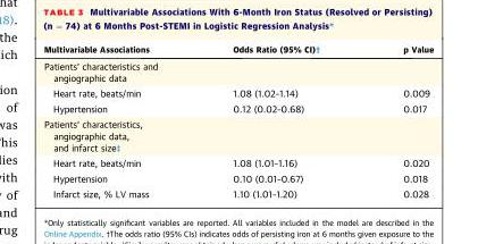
<table><thead><tr><td>Multivariable Associations</td><td>Odds Ratio (95% CI)†</td><td>p Value</td></tr></thead><tbody><tr><td colspan="3">Patients’ characteristics and angiographic data</td></tr><tr><td>Heart rate, beats/min</td><td>1.08 (1.02–1.14)</td><td>0.009</td></tr><tr><td>Hypertension</td><td>0.12 (0.02–0.68)</td><td>0.017</td></tr><tr><td colspan="3">Patients’ characteristics, angiographic data, and infarct size‡</td></tr><tr><td>Heart rate, beats/min</td><td>1.08 (1.01–1.16)</td><td>0.020</td></tr><tr><td>Hypertension</td><td>0.10 (0.01–0.67)</td><td>0.018</td></tr><tr><td>Infarct size, % LV mass</td><td>1.10 (1.01–1.20)</td><td>0.028</td></tr></tbody></table>